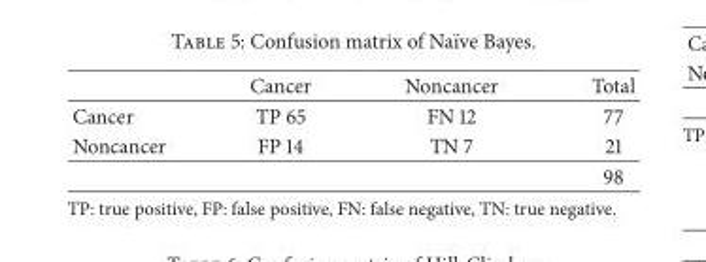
<table><thead><tr><td></td><td>Cancer</td><td>Noncancer</td><td>Total</td></tr></thead><tbody><tr><td>Cancer</td><td>TP 65</td><td>FN 12</td><td>77</td></tr><tr><td rowspan="2">Noncancer</td><td>FP 14</td><td>TN 7</td><td>21</td></tr><tr><td></td><td></td><td>98</td></tr></tbody></table>